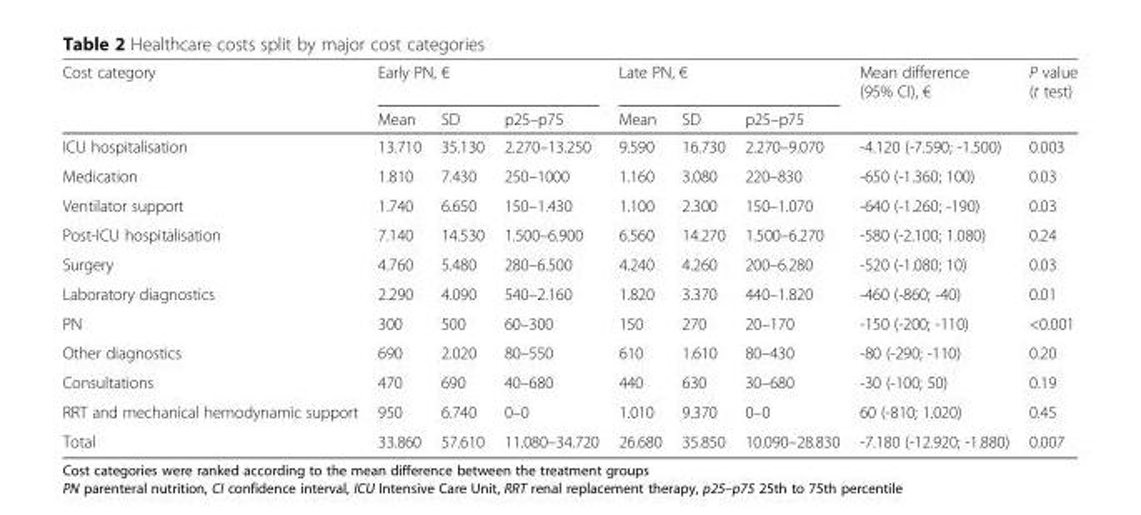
<table><thead><tr><td rowspan="2">Cost category</td><td colspan="3">Early PN, €</td><td colspan="3">Late PN, €</td><td rowspan="2">Mean difference (95% CI), €</td><td rowspan="2">P value (t test)</td></tr><tr><td>Mean</td><td>SD</td><td>p25–p75</td><td>Mean</td><td>SD</td><td>p25–p75</td></tr></thead><tbody><tr><td>ICU hospitalisation</td><td>13.710</td><td>35.130</td><td>2.270–13.250</td><td>9.590</td><td>16.730</td><td>2.270–9.070</td><td>-4.120 (-7.590; -1.500)</td><td>0.003</td></tr><tr><td>Medication</td><td>1.810</td><td>7.430</td><td>250–1000</td><td>1.160</td><td>3.080</td><td>220–830</td><td>-650 (-1.360; 100)</td><td>0.03</td></tr><tr><td>Ventilator support</td><td>1.740</td><td>6.650</td><td>150–1.430</td><td>1.100</td><td>2.300</td><td>150–1.070</td><td>-640 (-1.260; -190)</td><td>0.03</td></tr><tr><td>Post-ICU hospitalisation</td><td>7.140</td><td>14.530</td><td>1.500–6.900</td><td>6.560</td><td>14.270</td><td>1.500–6.270</td><td>-580 (-2.100; 1.080)</td><td>0.24</td></tr><tr><td>Surgery</td><td>4.760</td><td>5.480</td><td>280–6.500</td><td>4.240</td><td>4.260</td><td>200–6.280</td><td>-520 (-1.080; 10)</td><td>0.03</td></tr><tr><td>Laboratory diagnostics</td><td>2.290</td><td>4.090</td><td>540–2.160</td><td>1.820</td><td>3.370</td><td>440–1.820</td><td>-460 (-860; -40)</td><td>0.01</td></tr><tr><td>PN</td><td>300</td><td>500</td><td>60–300</td><td>150</td><td>270</td><td>20–170</td><td>-150 (-200; -110)</td><td>&lt;0.001</td></tr><tr><td>Other diagnostics</td><td>690</td><td>2.020</td><td>80–550</td><td>610</td><td>1.610</td><td>80–430</td><td>-80 (-290; -110)</td><td>0.20</td></tr><tr><td>Consultations</td><td>470</td><td>690</td><td>40–680</td><td>440</td><td>630</td><td>30–680</td><td>-30 (-100; 50)</td><td>0.19</td></tr><tr><td>RRT and mechanical hemodynamic support</td><td>950</td><td>6.740</td><td>0–0</td><td>1.010</td><td>9.370</td><td>0–0</td><td>60 (-810; 1.020)</td><td>0.45</td></tr><tr><td>Total</td><td>33.860</td><td>57.610</td><td>11.080–34.720</td><td>26.680</td><td>35.850</td><td>10.090–28.830</td><td>-7.180 (-12.920; -1.880)</td><td>0.007</td></tr></tbody></table>